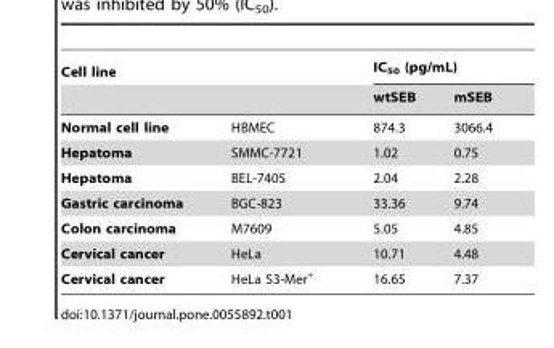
<table><thead><tr><td colspan="2">Cell line</td><td colspan="2">IC<sub>50</sub> (pg/mL)</td></tr><tr><td></td><td></td><td>wtSEB</td><td>mSEB</td></tr></thead><tbody><tr><td>Normal cell line</td><td>HBMEC</td><td>874.3</td><td>3066.4</td></tr><tr><td>Hepatoma</td><td>SMMC-7721</td><td>1.02</td><td>0.75</td></tr><tr><td>Hepatoma</td><td>BEL-7405</td><td>2.04</td><td>2.28</td></tr><tr><td>Gastric carcinoma</td><td>BGC-823</td><td>33.36</td><td>9.74</td></tr><tr><td>Colon carcinoma</td><td>M7609</td><td>5.05</td><td>4.85</td></tr><tr><td>Cervical cancer</td><td>HeLa</td><td>10.71</td><td>4.48</td></tr><tr><td>Cervical cancer</td><td>HeLa S3-Mer<sup>+</sup></td><td>16.65</td><td>7.37</td></tr></tbody></table>